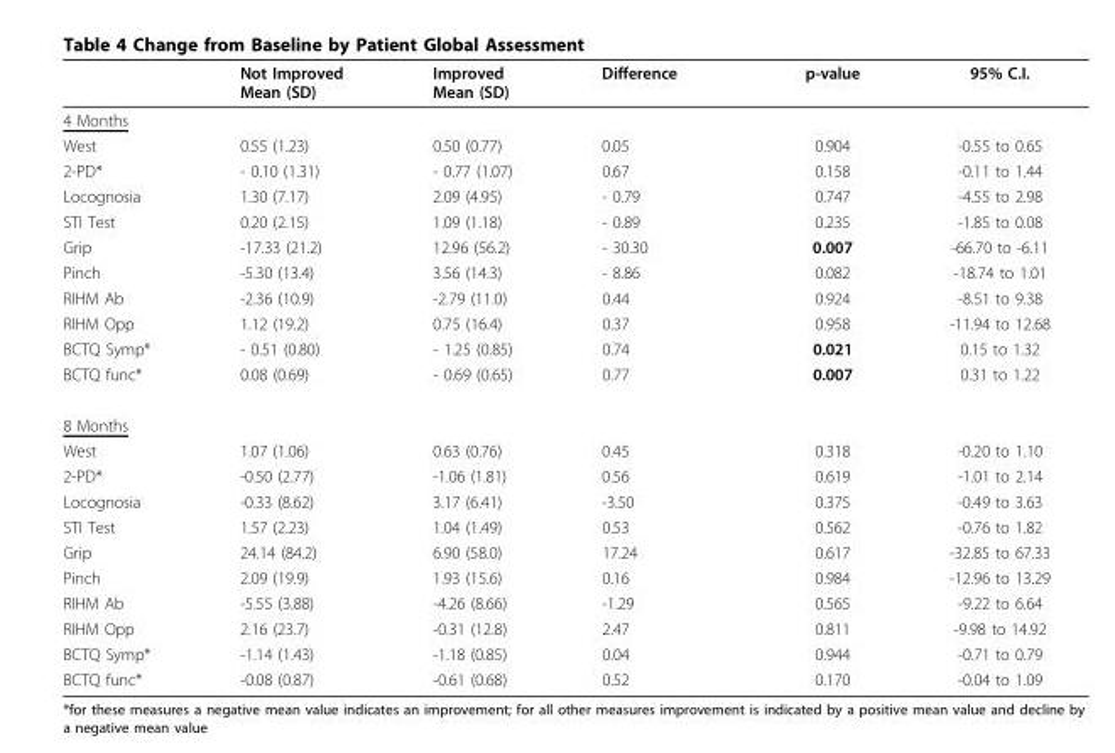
<table><thead><tr><td></td><td>Not Improved Mean (SD)</td><td>Improved Mean (SD)</td><td>Difference</td><td>p-value</td><td>95% C.I.</td></tr></thead><tbody><tr><td colspan="6">4 Months</td></tr><tr><td>West</td><td>0.55 (1.23)</td><td>0.50 (0.77)</td><td>0.05</td><td>0.904</td><td>-0.55 to 0.65</td></tr><tr><td>2-PD*</td><td>- 0.10 (1.31)</td><td>- 0.77 (1.07)</td><td>0.67</td><td>0.158</td><td>-0.11 to 1.44</td></tr><tr><td>Locognosia</td><td>1.30 (7.17)</td><td>2.09 (4.95)</td><td>- 0.79</td><td>0.747</td><td>-4.55 to 2.98</td></tr><tr><td>STI Test</td><td>0.20 (2.15)</td><td>1.09 (1.18)</td><td>- 0.89</td><td>0.235</td><td>-1.85 to 0.08</td></tr><tr><td>Grip</td><td>-17.33 (21.2)</td><td>12.96 (56.2)</td><td>- 30.30</td><td>0.007</td><td>-66.70 to -6.11</td></tr><tr><td>Pinch</td><td>-5.30 (13.4)</td><td>3.56 (14.3)</td><td>- 8.86</td><td>0.082</td><td>-18.74 to 1.01</td></tr><tr><td>RIHM Ab</td><td>-2.36 (10.9)</td><td>-2.79 (11.0)</td><td>0.44</td><td>0.924</td><td>-8.51 to 9.38</td></tr><tr><td>RIHM Opp</td><td>1.12 (19.2)</td><td>0.75 (16.4)</td><td>0.37</td><td>0.958</td><td>-11.94 to 12.68</td></tr><tr><td>BCTQ Symp*</td><td>- 0.51 (0.80)</td><td>- 1.25 (0.85)</td><td>0.74</td><td>0.021</td><td>0.15 to 1.32</td></tr><tr><td>BCTQ func*</td><td>0.08 (0.69)</td><td>- 0.69 (0.65)</td><td>0.77</td><td>0.007</td><td>0.31 to 1.22</td></tr><tr><td colspan="6">8 Months</td></tr><tr><td>West</td><td>1.07 (1.06)</td><td>0.63 (0.76)</td><td>0.45</td><td>0.318</td><td>-0.20 to 1.10</td></tr><tr><td>2-PD*</td><td>-0.50 (2.77)</td><td>-1.06 (1.81)</td><td>0.56</td><td>0.619</td><td>-1.01 to 2.14</td></tr><tr><td>Locognosia</td><td>-0.33 (8.62)</td><td>3.17 (6.41)</td><td>-3.50</td><td>0.375</td><td>-0.49 to 3.63</td></tr><tr><td>STI Test</td><td>1.57 (2.23)</td><td>1.04 (1.49)</td><td>0.53</td><td>0.562</td><td>-0.76 to 1.82</td></tr><tr><td>Grip</td><td>24.14 (84.2)</td><td>6.90 (58.0)</td><td>17.24</td><td>0.617</td><td>-32.85 to 67.33</td></tr><tr><td>Pinch</td><td>2.09 (19.9)</td><td>1.93 (15.6)</td><td>0.16</td><td>0.984</td><td>-12.96 to 13.29</td></tr><tr><td>RIHM Ab</td><td>-5.55 (3.88)</td><td>-4.26 (8.66)</td><td>-1.29</td><td>0.565</td><td>-9.22 to 6.64</td></tr><tr><td>RIHM Opp</td><td>2.16 (23.7)</td><td>-0.31 (12.8)</td><td>2.47</td><td>0.811</td><td>-9.98 to 14.92</td></tr><tr><td>BCTQ Symp*</td><td>-1.14 (1.43)</td><td>-1.18 (0.85)</td><td>0.04</td><td>0.944</td><td>-0.71 to 0.79</td></tr><tr><td>BCTQ func*</td><td>-0.08 (0.87)</td><td>-0.61 (0.68)</td><td>0.52</td><td>0.170</td><td>-0.04 to 1.09</td></tr></tbody></table>